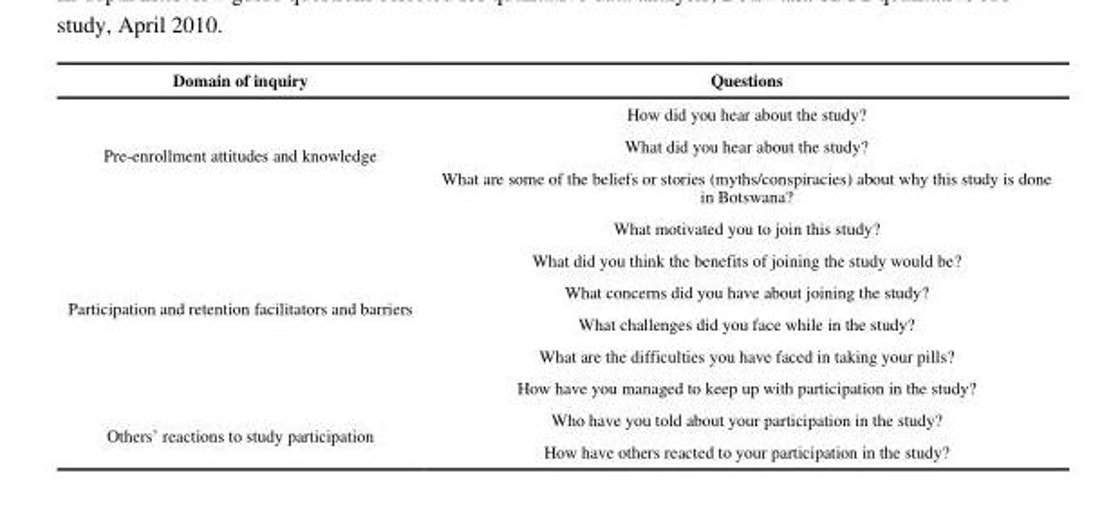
<table><thead><tr><td>Domain of inquiry</td><td>Questions</td></tr></thead><tbody><tr><td rowspan="3">Pre-enrollment attitudes and knowledge</td><td>How did you hear about the study?</td></tr><tr><td>What did you hear about the study?</td></tr><tr><td>What are some of the beliefs or stories (myths/conspiracies) about why this study is done in Botswana?</td></tr><tr><td rowspan="6">Participation and retention facilitators and barriers</td><td>What motivated you to join this study?</td></tr><tr><td>What did you think the benefits of joining the study would be?</td></tr><tr><td>What concerns did you have about joining the study?</td></tr><tr><td>What challenges did you face while in the study?</td></tr><tr><td>What are the difficulties you have faced in taking your pills?</td></tr><tr><td>How have you managed to keep up with participation in the study?</td></tr><tr><td rowspan="2">Others’ reactions to study participation</td><td>Who have you told about your participation in the study?</td></tr><tr><td>How have others reacted to your participation in the study?</td></tr></tbody></table>